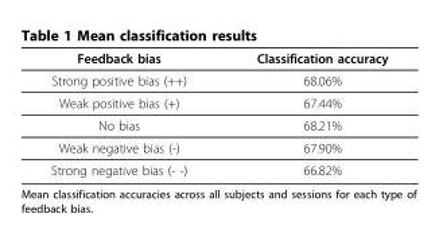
<table><thead><tr><td>Feedback bias</td><td>Classification accuracy</td></tr></thead><tbody><tr><td>Strong positive bias (++)</td><td>68.06%</td></tr><tr><td>Weak positive bias (+)</td><td>67.44%</td></tr><tr><td>No bias</td><td>68.21%</td></tr><tr><td>Weak negative bias (-)</td><td>67.90%</td></tr><tr><td>Strong negative bias (- -)</td><td>66.82%</td></tr></tbody></table>